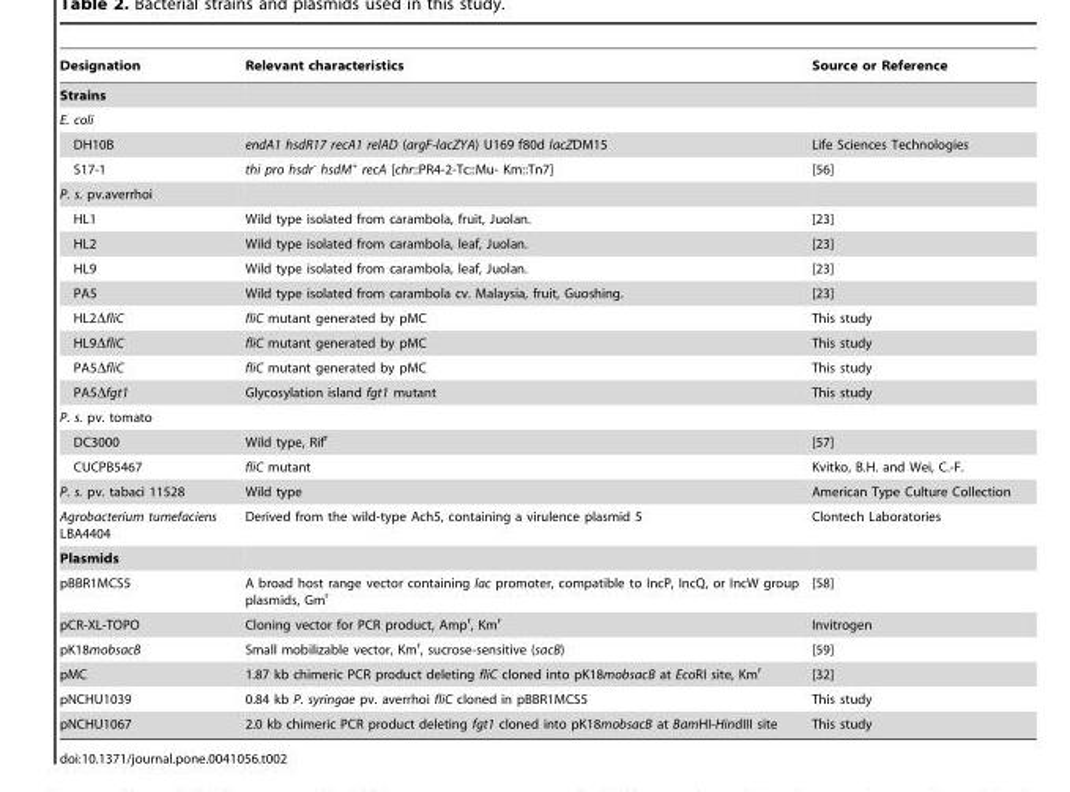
<table><thead><tr><td>Designation</td><td>Relevant characteristics</td><td>Source or Reference</td></tr></thead><tbody><tr><td colspan="3">Strains</td></tr><tr><td colspan="3">E. coli</td></tr><tr><td>DH10B</td><td>endA1 hsdR17 recA1 relAD (argF-lacZYA) U169 f80d lacZDM15</td><td>Life Sciences Technologies</td></tr><tr><td>S17-1</td><td>thi pro hsdr<sup>-</sup> hsdM<sup>+</sup> recA [chr::PR4-2-Tc::Mu- Km::Tn7]</td><td>[56]</td></tr><tr><td colspan="3">P. s. pv.averrhoi</td></tr><tr><td>HL1</td><td>Wild type isolated from carambola, fruit, Juolan.</td><td>[23]</td></tr><tr><td>HL2</td><td>Wild type isolated from carambola, leaf, Juolan.</td><td>[23]</td></tr><tr><td>HL9</td><td>Wild type isolated from carambola, leaf, Juolan.</td><td>[23]</td></tr><tr><td>PA5</td><td>Wild type isolated from carambola cv. Malaysia, fruit, Guoshing.</td><td>[23]</td></tr><tr><td>HL2ΔfliC</td><td>fliC mutant generated by pMC</td><td>This study</td></tr><tr><td>HL9ΔfliC</td><td>fliC mutant generated by pMC</td><td>This study</td></tr><tr><td>PA5ΔfliC</td><td>fliC mutant generated by pMC</td><td>This study</td></tr><tr><td>PA5Δfgt1</td><td>Glycosylation island fgt1 mutant</td><td>This study</td></tr><tr><td colspan="3">P. s. pv. tomato</td></tr><tr><td>DC3000</td><td>Wild type, Rif<sup>r</sup></td><td>[57]</td></tr><tr><td>CUCPB5467</td><td>fliC mutant</td><td>Kvitko, B.H. and Wei, C.-F.</td></tr><tr><td>P. s. pv. tabaci 11528</td><td>Wild type</td><td>American Type Culture Collection</td></tr><tr><td>Agrobacterium tumefaciens LBA4404</td><td>Derived from the wild-type Ach5, containing a virulence plasmid 5</td><td>Clontech Laboratories</td></tr><tr><td colspan="3">Plasmids</td></tr><tr><td>pBBR1MCS5</td><td>A broad host range vector containing lac promoter, compatible to IncP, IncQ, or IncW group plasmids, Gm<sup>r</sup></td><td>[58]</td></tr><tr><td>pCR-XL-TOPO</td><td>Cloning vector for PCR product, Amp<sup>r</sup>, Km<sup>r</sup></td><td>Invitrogen</td></tr><tr><td>pK18mobsacB</td><td>Small mobilizable vector, Km<sup>r</sup>, sucrose-sensitive (sacB)</td><td>[59]</td></tr><tr><td>pMC</td><td>1.87 kb chimeric PCR product deleting fliC cloned into pK18mobsacB at EcoRI site, Km<sup>r</sup></td><td>[32]</td></tr><tr><td>pNCHU1039</td><td>0.84 kb P. syringae pv. averrhoi fliC cloned in pBBR1MCS5</td><td>This study</td></tr><tr><td>pNCHU1067</td><td>2.0 kb chimeric PCR product deleting fgt1 cloned into pK18mobsacB at BamHI-HindIII site</td><td>This study</td></tr></tbody></table>